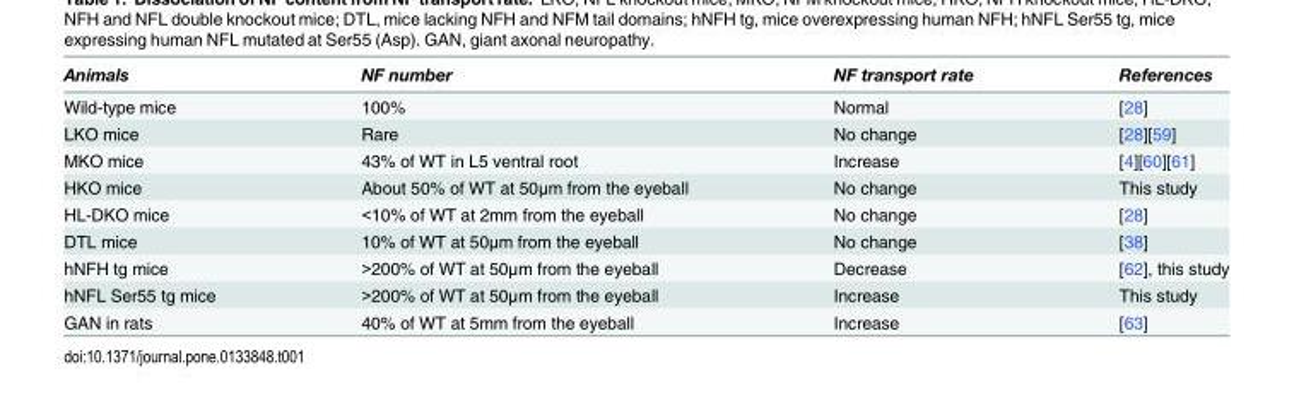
<table><thead><tr><td>Animals</td><td>NF number</td><td>NF transport rate</td><td>References</td></tr></thead><tbody><tr><td>Wild-type mice</td><td>100%</td><td>Normal</td><td>[28]</td></tr><tr><td>LKO mice</td><td>Rare</td><td>No change</td><td>[28][59]</td></tr><tr><td>MKO mice</td><td>43% of WT in L5 ventral root</td><td>Increase</td><td>[4][60][61]</td></tr><tr><td>HKO mice</td><td>About 50% of WT at 50μm from the eyeball</td><td>No change</td><td>This study</td></tr><tr><td>HL-DKO mice</td><td>&lt;10% of WT at 2mm from the eyeball</td><td>No change</td><td>[28]</td></tr><tr><td>DTL mice</td><td>10% of WT at 50μm from the eyeball</td><td>No change</td><td>[38]</td></tr><tr><td>hNFH tg mice</td><td>&gt;200% of WT at 50μm from the eyeball</td><td>Decrease</td><td>[62], this study</td></tr><tr><td>hNFL Ser55 tg mice</td><td>&gt;200% of WT at 50μm from the eyeball</td><td>Increase</td><td>This study</td></tr><tr><td>GAN in rats</td><td>40% of WT at 5mm from the eyeball</td><td>Increase</td><td>[63]</td></tr></tbody></table>